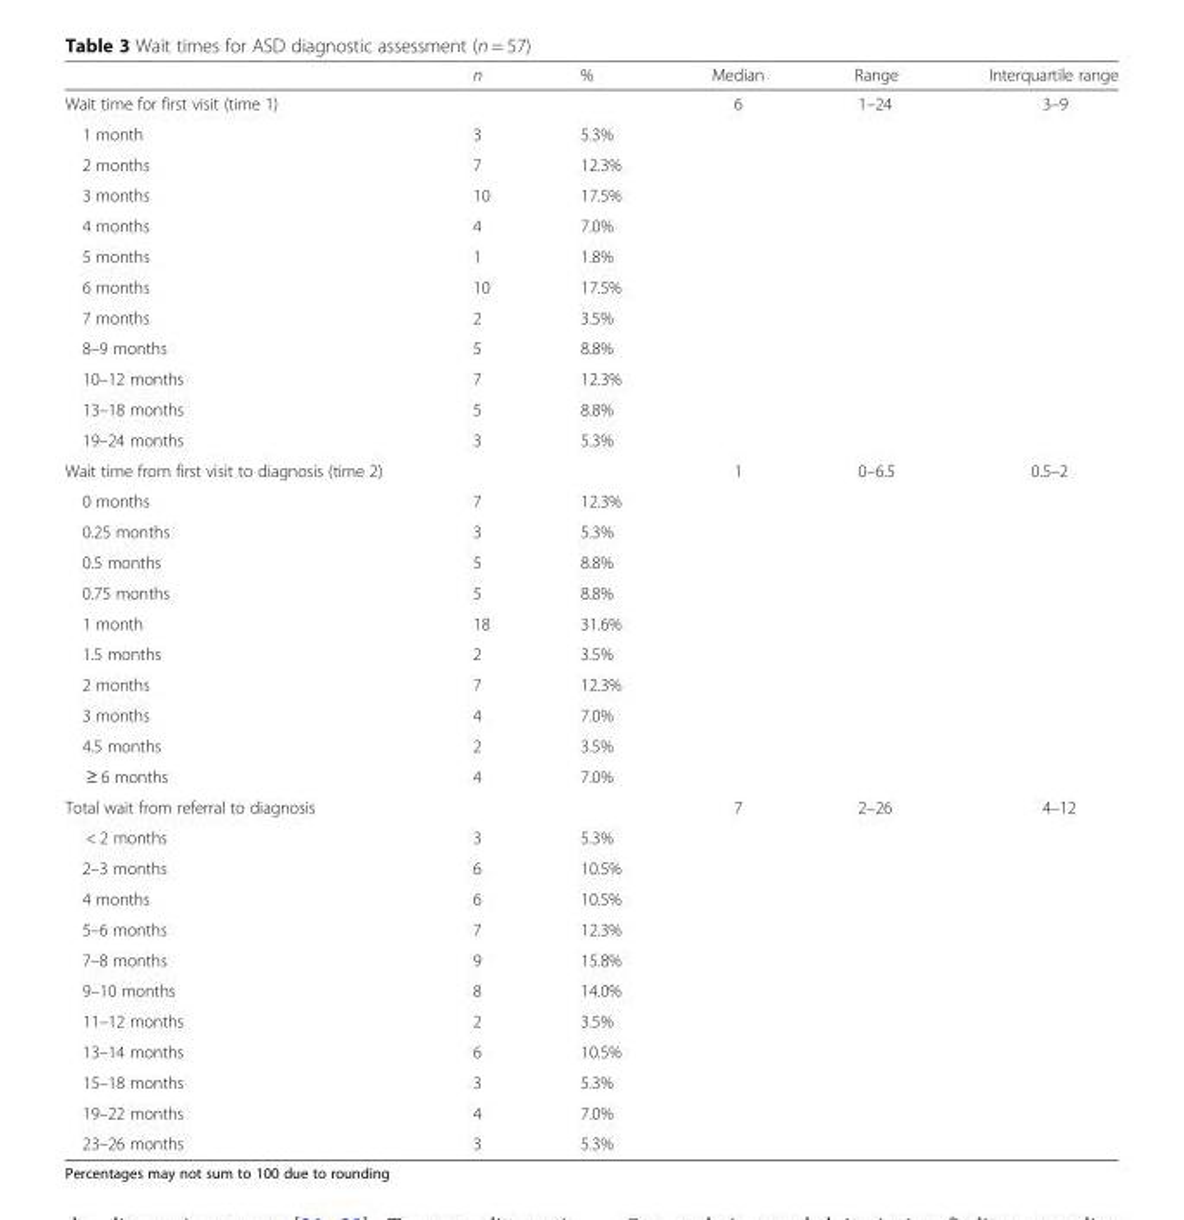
<table><thead><tr><td></td><td>n</td><td>%</td><td>Median</td><td>Range</td><td>Interquartile range</td></tr></thead><tbody><tr><td>Wait time for first visit (time 1)</td><td></td><td></td><td>6</td><td>1–24</td><td>3–9</td></tr><tr><td>1 month</td><td>3</td><td>5.3%</td><td></td><td></td><td></td></tr><tr><td>2 months</td><td>7</td><td>12.3%</td><td></td><td></td><td></td></tr><tr><td>3 months</td><td>10</td><td>17.5%</td><td></td><td></td><td></td></tr><tr><td>4 months</td><td>4</td><td>7.0%</td><td></td><td></td><td></td></tr><tr><td>5 months</td><td>1</td><td>1.8%</td><td></td><td></td><td></td></tr><tr><td>6 months</td><td>10</td><td>17.5%</td><td></td><td></td><td></td></tr><tr><td>7 months</td><td>2</td><td>3.5%</td><td></td><td></td><td></td></tr><tr><td>8–9 months</td><td>5</td><td>8.8%</td><td></td><td></td><td></td></tr><tr><td>10–12 months</td><td>7</td><td>12.3%</td><td></td><td></td><td></td></tr><tr><td>13–18 months</td><td>5</td><td>8.8%</td><td></td><td></td><td></td></tr><tr><td>19–24 months</td><td>3</td><td>5.3%</td><td></td><td></td><td></td></tr><tr><td>Wait time from first visit to diagnosis (time 2)</td><td></td><td></td><td>1</td><td>0–6.5</td><td>0.5–2</td></tr><tr><td>0 months</td><td>7</td><td>12.3%</td><td></td><td></td><td></td></tr><tr><td>0.25 months</td><td>3</td><td>5.3%</td><td></td><td></td><td></td></tr><tr><td>0.5 months</td><td>5</td><td>8.8%</td><td></td><td></td><td></td></tr><tr><td>0.75 months</td><td>5</td><td>8.8%</td><td></td><td></td><td></td></tr><tr><td>1 month</td><td>18</td><td>31.6%</td><td></td><td></td><td></td></tr><tr><td>1.5 months</td><td>2</td><td>3.5%</td><td></td><td></td><td></td></tr><tr><td>2 months</td><td>7</td><td>12.3%</td><td></td><td></td><td></td></tr><tr><td>3 months</td><td>4</td><td>7.0%</td><td></td><td></td><td></td></tr><tr><td>4.5 months</td><td>2</td><td>3.5%</td><td></td><td></td><td></td></tr><tr><td>≥ 6 months</td><td>4</td><td>7.0%</td><td></td><td></td><td></td></tr><tr><td>Total wait from referral to diagnosis</td><td></td><td></td><td>7</td><td>2–26</td><td>4–12</td></tr><tr><td>&lt; 2 months</td><td>3</td><td>5.3%</td><td></td><td></td><td></td></tr><tr><td>2–3 months</td><td>6</td><td>10.5%</td><td></td><td></td><td></td></tr><tr><td>4 months</td><td>6</td><td>10.5%</td><td></td><td></td><td></td></tr><tr><td>5–6 months</td><td>7</td><td>12.3%</td><td></td><td></td><td></td></tr><tr><td>7–8 months</td><td>9</td><td>15.8%</td><td></td><td></td><td></td></tr><tr><td>9–10 months</td><td>8</td><td>14.0%</td><td></td><td></td><td></td></tr><tr><td>11–12 months</td><td>2</td><td>3.5%</td><td></td><td></td><td></td></tr><tr><td>13–14 months</td><td>6</td><td>10.5%</td><td></td><td></td><td></td></tr><tr><td>15–18 months</td><td>3</td><td>5.3%</td><td></td><td></td><td></td></tr><tr><td>19–22 months</td><td>4</td><td>7.0%</td><td></td><td></td><td></td></tr><tr><td>23–26 months</td><td>3</td><td>5.3%</td><td></td><td></td><td></td></tr></tbody></table>